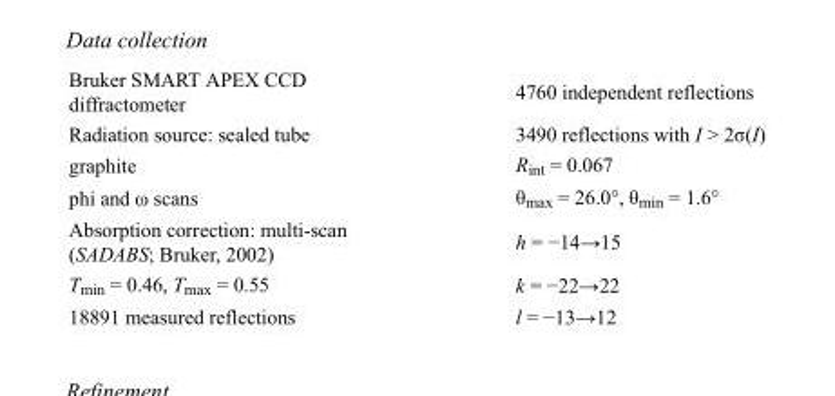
<table><tbody><tr><td>Bruker SMART APEX CCD diffractometer</td><td>4760 independent reflections</td></tr><tr><td>Radiation source: sealed tube</td><td>3490 reflections with I &gt; 2σ(I)</td></tr><tr><td>graphite</td><td>R<sub>int</sub> = 0.067</td></tr><tr><td>phi and ω scans</td><td>θ<sub>max</sub> = 26.0°, θ<sub>min</sub> = 1.6°</td></tr><tr><td>Absorption correction: multi-scan (SADABS; Bruker, 2002)</td><td>h = −14→15</td></tr><tr><td>T<sub>min</sub> = 0.46, T<sub>max</sub> = 0.55</td><td>k = −22→22</td></tr><tr><td>18891 measured reflections</td><td>l = −13→12</td></tr></tbody></table>